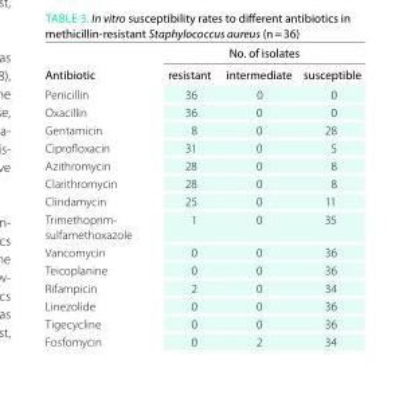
<table><thead><tr><td rowspan="2">Antibiotic</td><td colspan="3">No. of isolates</td></tr><tr><td>resistant</td><td>intermediate</td><td>susceptible</td></tr></thead><tbody><tr><td>Penicillin</td><td>36</td><td>0</td><td>0</td></tr><tr><td>Oxacillin</td><td>36</td><td>0</td><td>0</td></tr><tr><td>Gentamicin</td><td>8</td><td>0</td><td>28</td></tr><tr><td>Ciprofloxacin</td><td>31</td><td>0</td><td>5</td></tr><tr><td>Azithromycin</td><td>28</td><td>0</td><td>8</td></tr><tr><td>Clarithromycin</td><td>28</td><td>0</td><td>8</td></tr><tr><td>Clindamycin</td><td>25</td><td>0</td><td>11</td></tr><tr><td>Trimethoprim- sulfamethoxazole</td><td>1</td><td>0</td><td>35</td></tr><tr><td>Vancomycin</td><td>0</td><td>0</td><td>36</td></tr><tr><td>Teicoplanine</td><td>0</td><td>0</td><td>36</td></tr><tr><td>Rifampicin</td><td>2</td><td>0</td><td>34</td></tr><tr><td>Linezolide</td><td>0</td><td>0</td><td>36</td></tr><tr><td>Tigecycline</td><td>0</td><td>0</td><td>36</td></tr><tr><td>Fosfomycin</td><td>0</td><td>2</td><td>34</td></tr></tbody></table>